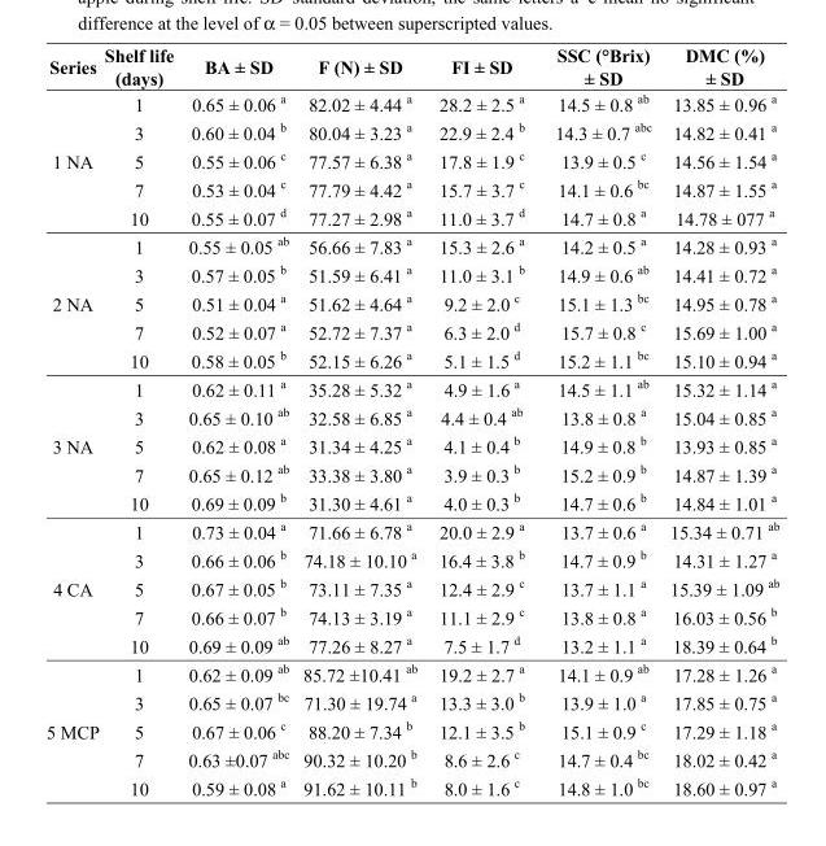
<table><thead><tr><td>Series</td><td>Shelf life (days)</td><td>BA ± SD</td><td>F (N) ± SD</td><td>FI ± SD</td><td>SSC (°Brix) ± SD</td><td>DMC (%) ± SD</td></tr></thead><tbody><tr><td rowspan="5">1 NA</td><td>1</td><td>0.65 ± 0.06 <sup>a</sup></td><td>82.02 ± 4.44 <sup>a</sup></td><td>28.2 ± 2.5 <sup>a</sup></td><td>14.5 ± 0.8 <sup>ab</sup></td><td>13.85 ± 0.96 <sup>a</sup></td></tr><tr><td>3</td><td>0.60 ± 0.04 <sup>b</sup></td><td>80.04 ± 3.23 <sup>a</sup></td><td>22.9 ± 2.4 <sup>b</sup></td><td>14.3 ± 0.7 <sup>abc</sup></td><td>14.82 ± 0.41 <sup>a</sup></td></tr><tr><td>5</td><td>0.55 ± 0.06 <sup>c</sup></td><td>77.57 ± 6.38 <sup>a</sup></td><td>17.8 ± 1.9 <sup>c</sup></td><td>13.9 ± 0.5 <sup>c</sup></td><td>14.56 ± 1.54 <sup>a</sup></td></tr><tr><td>7</td><td>0.53 ± 0.04 <sup>c</sup></td><td>77.79 ± 4.42 <sup>a</sup></td><td>15.7 ± 3.7 <sup>c</sup></td><td>14.1 ± 0.6 <sup>bc</sup></td><td>14.87 ± 1.55 <sup>a</sup></td></tr><tr><td>10</td><td>0.55 ± 0.07 <sup>d</sup></td><td>77.27 ± 2.98 <sup>a</sup></td><td>11.0 ± 3.7 <sup>d</sup></td><td>14.7 ± 0.8 <sup>a</sup></td><td>14.78 ± 077 <sup>a</sup></td></tr><tr><td rowspan="5">2 NA</td><td>1</td><td>0.55 ± 0.05 <sup>ab</sup></td><td>56.66 ± 7.83 <sup>a</sup></td><td>15.3 ± 2.6 <sup>a</sup></td><td>14.2 ± 0.5 <sup>a</sup></td><td>14.28 ± 0.93 <sup>a</sup></td></tr><tr><td>3</td><td>0.57 ± 0.05 <sup>b</sup></td><td>51.59 ± 6.41 <sup>a</sup></td><td>11.0 ± 3.1 <sup>b</sup></td><td>14.9 ± 0.6 <sup>ab</sup></td><td>14.41 ± 0.72 <sup>a</sup></td></tr><tr><td>5</td><td>0.51 ± 0.04 <sup>a</sup></td><td>51.62 ± 4.64 <sup>a</sup></td><td>9.2 ± 2.0 <sup>c</sup></td><td>15.1 ± 1.3 <sup>bc</sup></td><td>14.95 ± 0.78 <sup>a</sup></td></tr><tr><td>7</td><td>0.52 ± 0.07 <sup>a</sup></td><td>52.72 ± 7.37 <sup>a</sup></td><td>6.3 ± 2.0 <sup>d</sup></td><td>15.7 ± 0.8 <sup>c</sup></td><td>15.69 ± 1.00 <sup>a</sup></td></tr><tr><td>10</td><td>0.58 ± 0.05 <sup>b</sup></td><td>52.15 ± 6.26 <sup>a</sup></td><td>5.1 ± 1.5 <sup>d</sup></td><td>15.2 ± 1.1 <sup>bc</sup></td><td>15.10 ± 0.94 <sup>a</sup></td></tr><tr><td rowspan="5">3 NA</td><td>1</td><td>0.62 ± 0.11 <sup>a</sup></td><td>35.28 ± 5.32 <sup>a</sup></td><td>4.9 ± 1.6 <sup>a</sup></td><td>14.5 ± 1.1 <sup>ab</sup></td><td>15.32 ± 1.14 <sup>a</sup></td></tr><tr><td>3</td><td>0.65 ± 0.10 <sup>ab</sup></td><td>32.58 ± 6.85 <sup>a</sup></td><td>4.4 ± 0.4 <sup>ab</sup></td><td>13.8 ± 0.8 <sup>a</sup></td><td>15.04 ± 0.85 <sup>a</sup></td></tr><tr><td>5</td><td>0.62 ± 0.08 <sup>a</sup></td><td>31.34 ± 4.25 <sup>a</sup></td><td>4.1 ± 0.4 <sup>b</sup></td><td>14.9 ± 0.8 <sup>b</sup></td><td>13.93 ± 0.85 <sup>a</sup></td></tr><tr><td>7</td><td>0.65 ± 0.12 <sup>ab</sup></td><td>33.38 ± 3.80 <sup>a</sup></td><td>3.9 ± 0.3 <sup>b</sup></td><td>15.2 ± 0.9 <sup>b</sup></td><td>14.87 ± 1.39 <sup>a</sup></td></tr><tr><td>10</td><td>0.69 ± 0.09 <sup>b</sup></td><td>31.30 ± 4.61 <sup>a</sup></td><td>4.0 ± 0.3 <sup>b</sup></td><td>14.7 ± 0.6 <sup>b</sup></td><td>14.84 ± 1.01 <sup>a</sup></td></tr><tr><td rowspan="5">4 CA</td><td>1</td><td>0.73 ± 0.04 <sup>a</sup></td><td>71.66 ± 6.78 <sup>a</sup></td><td>20.0 ± 2.9 <sup>a</sup></td><td>13.7 ± 0.6 <sup>a</sup></td><td>15.34 ± 0.71 <sup>ab</sup></td></tr><tr><td>3</td><td>0.66 ± 0.06 <sup>b</sup></td><td>74.18 ± 10.10 <sup>a</sup></td><td>16.4 ± 3.8 <sup>b</sup></td><td>14.7 ± 0.9 <sup>b</sup></td><td>14.31 ± 1.27 <sup>a</sup></td></tr><tr><td>5</td><td>0.67 ± 0.05 <sup>b</sup></td><td>73.11 ± 7.35 <sup>a</sup></td><td>12.4 ± 2.9 <sup>c</sup></td><td>13.7 ± 1.1 <sup>a</sup></td><td>15.39 ± 1.09 <sup>ab</sup></td></tr><tr><td>7</td><td>0.66 ± 0.07 <sup>b</sup></td><td>74.13 ± 3.19 <sup>a</sup></td><td>11.1 ± 2.9 <sup>c</sup></td><td>13.8 ± 0.8 <sup>a</sup></td><td>16.03 ± 0.56 <sup>b</sup></td></tr><tr><td>10</td><td>0.69 ± 0.09 <sup>ab</sup></td><td>77.26 ± 8.27 <sup>a</sup></td><td>7.5 ± 1.7 <sup>d</sup></td><td>13.2 ± 1.1 <sup>a</sup></td><td>18.39 ± 0.64 <sup>b</sup></td></tr><tr><td rowspan="5">5 MCP</td><td>1</td><td>0.62 ± 0.09 <sup>ab</sup></td><td>85.72 ±10.41 <sup>ab</sup></td><td>19.2 ± 2.7 <sup>a</sup></td><td>14.1 ± 0.9 <sup>ab</sup></td><td>17.28 ± 1.26 <sup>a</sup></td></tr><tr><td>3</td><td>0.65 ± 0.07 <sup>bc</sup></td><td>71.30 ± 19.74 <sup>a</sup></td><td>13.3 ± 3.0 <sup>b</sup></td><td>13.9 ± 1.0 <sup>a</sup></td><td>17.85 ± 0.75 <sup>a</sup></td></tr><tr><td>5</td><td>0.67 ± 0.06 <sup>c</sup></td><td>88.20 ± 7.34 <sup>b</sup></td><td>12.1 ± 3.5 <sup>b</sup></td><td>15.1 ± 0.9 <sup>c</sup></td><td>17.29 ± 1.18 <sup>a</sup></td></tr><tr><td>7</td><td>0.63 ±0.07 <sup>abc</sup></td><td>90.32 ± 10.20 <sup>b</sup></td><td>8.6 ± 2.6 <sup>c</sup></td><td>14.7 ± 0.4 <sup>bc</sup></td><td>18.02 ± 0.42 <sup>a</sup></td></tr><tr><td>10</td><td>0.59 ± 0.08 <sup>a</sup></td><td>91.62 ± 10.11 <sup>b</sup></td><td>8.0 ± 1.6 <sup>c</sup></td><td>14.8 ± 1.0 <sup>bc</sup></td><td>18.60 ± 0.97 <sup>a</sup></td></tr></tbody></table>